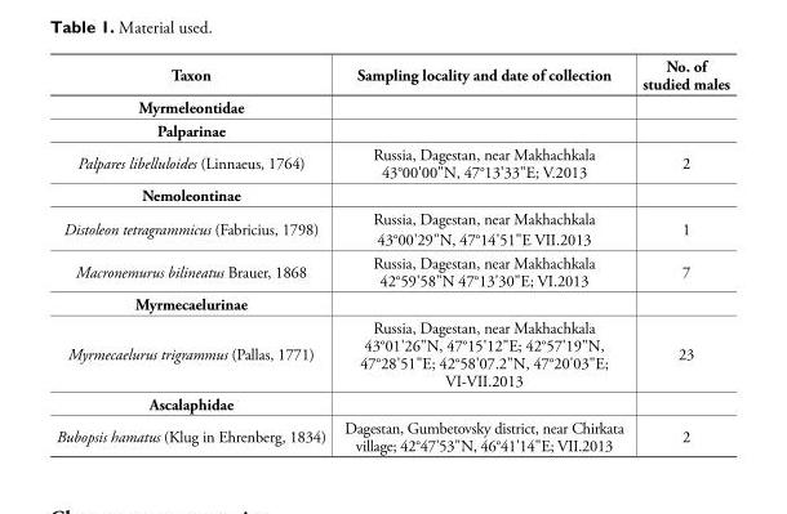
<table><thead><tr><td>Taxon</td><td>Sampling locality and date of collection</td><td>No. of studied males</td></tr></thead><tbody><tr><td colspan="3">Myrmeleontidae</td></tr><tr><td colspan="3">Palparinae</td></tr><tr><td>Palpares libelluloides (Linnaeus, 1764)</td><td>Russia, Dagestan, near Makhachkala 43°00&#x27;00&quot;N, 47°13&#x27;33&quot;E; V.2013</td><td>2</td></tr><tr><td colspan="3">Nemoleontinae</td></tr><tr><td>Distoleon tetragrammicus (Fabricius, 1798)</td><td>Russia, Dagestan, near Makhachkala 43°00&#x27;29&quot;N, 47°14&#x27;51&quot;E VII.2013</td><td>1</td></tr><tr><td>Macronemurus bilineatus Brauer, 1868</td><td>Russia, Dagestan, near Makhachkala 42°59&#x27;58&quot;N 47°13&#x27;30&quot;E; VI.2013</td><td>7</td></tr><tr><td colspan="3">Myrmecaelurinae</td></tr><tr><td>Myrmecaelurus trigrammus (Pallas, 1771)</td><td>Russia, Dagestan, near Makhachkala 43°01&#x27;26&quot;N, 47°15&#x27;12&quot;E; 42°57&#x27;19&quot;N, 47°28&#x27;51&quot;E; 42°58&#x27;07.2&quot;N, 47°20&#x27;03&quot;E; VI-VII.2013</td><td>23</td></tr><tr><td colspan="3">Ascalaphidae</td></tr><tr><td>Bubopsis hamatus (Klug in Ehrenberg, 1834)</td><td>Dagestan, Gumbetovsky district, near Chirkata village; 42°47&#x27;53&quot;N, 46°41&#x27;14&quot;E; VII.2013</td><td>2</td></tr></tbody></table>